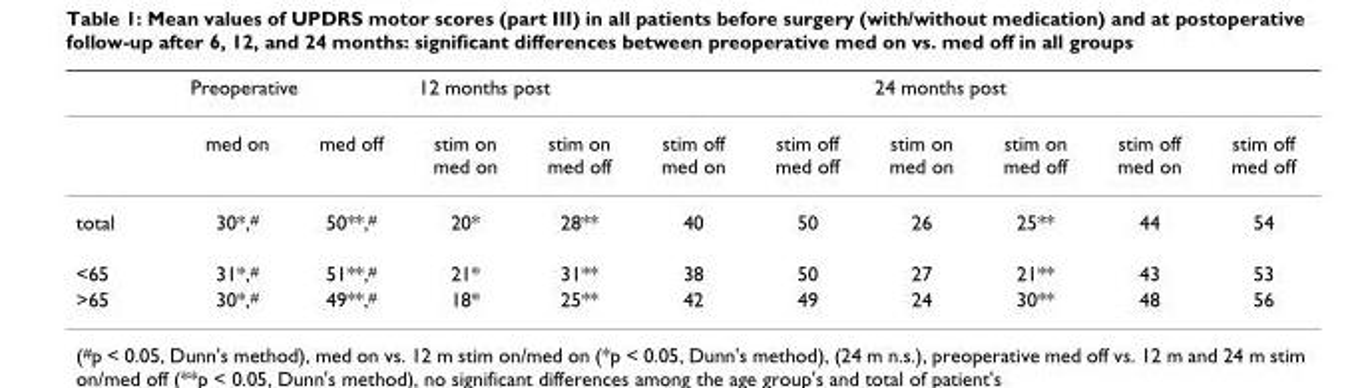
<table><thead><tr><td rowspan="2"></td><td colspan="2">Preoperative</td><td colspan="4">12 months post</td><td colspan="4">24 months post</td></tr><tr><td>med on</td><td>med off</td><td>stim on med on</td><td>stim on med off</td><td>stim off med on</td><td>stim off med off</td><td>stim on med on</td><td>stim on med off</td><td>stim off med on</td><td>stim off med off</td></tr></thead><tbody><tr><td>total</td><td>30*,#</td><td>50**,#</td><td>20*</td><td>28**</td><td>40</td><td>50</td><td>26</td><td>25**</td><td>44</td><td>54</td></tr><tr><td>&lt;65</td><td>31*,#</td><td>51**,#</td><td>21*</td><td>31**</td><td>38</td><td>50</td><td>27</td><td>21**</td><td>43</td><td>53</td></tr><tr><td>&gt;65</td><td>30*,#</td><td>49**,#</td><td>18*</td><td>25**</td><td>42</td><td>49</td><td>24</td><td>30**</td><td>48</td><td>56</td></tr></tbody></table>